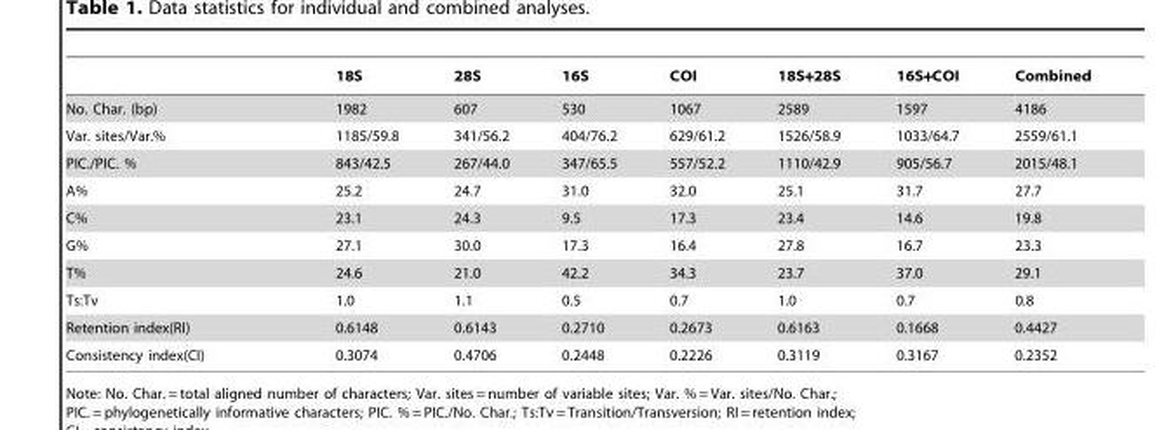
<table><thead><tr><td></td><td>18S</td><td>28S</td><td>16S</td><td>COI</td><td>18S+28S</td><td>16S+COI</td><td>Combined</td></tr></thead><tbody><tr><td>No. Char. (bp)</td><td>1982</td><td>607</td><td>530</td><td>1067</td><td>2589</td><td>1597</td><td>4186</td></tr><tr><td>Var. sites/Var.%</td><td>1185/59.8</td><td>341/56.2</td><td>404/76.2</td><td>629/61.2</td><td>1526/58.9</td><td>1033/64.7</td><td>2559/61.1</td></tr><tr><td>PIC./PIC. %</td><td>843/42.5</td><td>267/44.0</td><td>347/65.5</td><td>557/52.2</td><td>1110/42.9</td><td>905/56.7</td><td>2015/48.1</td></tr><tr><td>A%</td><td>25.2</td><td>24.7</td><td>31.0</td><td>32.0</td><td>25.1</td><td>31.7</td><td>27.7</td></tr><tr><td>C%</td><td>23.1</td><td>24.3</td><td>9.5</td><td>17.3</td><td>23.4</td><td>14.6</td><td>19.8</td></tr><tr><td>G%</td><td>27.1</td><td>30.0</td><td>17.3</td><td>16.4</td><td>27.8</td><td>16.7</td><td>23.3</td></tr><tr><td>T%</td><td>24.6</td><td>21.0</td><td>42.2</td><td>34.3</td><td>23.7</td><td>37.0</td><td>29.1</td></tr><tr><td>Ts:Tv</td><td>1.0</td><td>1.1</td><td>0.5</td><td>0.7</td><td>1.0</td><td>0.7</td><td>0.8</td></tr><tr><td>Retention index(RI)</td><td>0.6148</td><td>0.6143</td><td>0.2710</td><td>0.2673</td><td>0.6163</td><td>0.1668</td><td>0.4427</td></tr><tr><td>Consistency index(CI)</td><td>0.3074</td><td>0.4706</td><td>0.2448</td><td>0.2226</td><td>0.3119</td><td>0.3167</td><td>0.2352</td></tr></tbody></table>